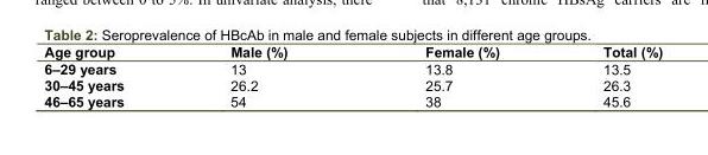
<table><thead><tr><td>Age group</td><td>Male (%)</td><td>Female (%)</td><td>Total (%)</td></tr></thead><tbody><tr><td>6–29 years</td><td>13</td><td>13.8</td><td>13.5</td></tr><tr><td>30–45 years</td><td>26.2</td><td>25.7</td><td>26.3</td></tr><tr><td>46–65 years</td><td>54</td><td>38</td><td>45.6</td></tr></tbody></table>